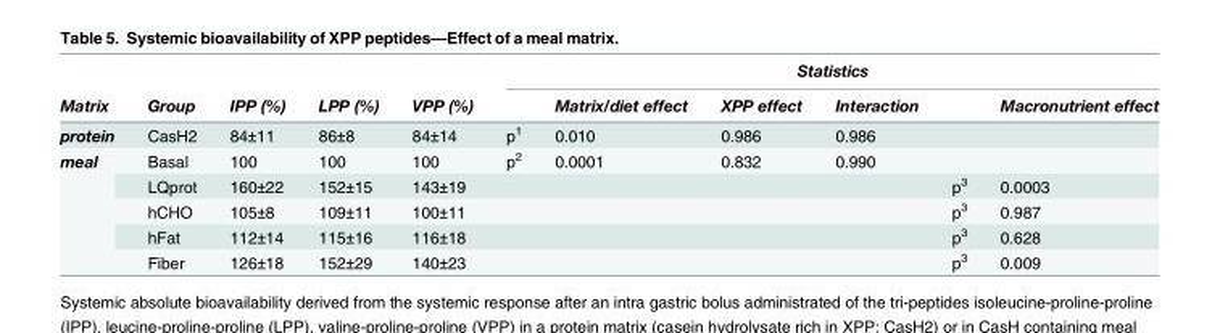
<table><thead><tr><td rowspan="2">Matrix</td><td rowspan="2">Group</td><td rowspan="2">IPP (%)</td><td rowspan="2">LPP (%)</td><td rowspan="2">VPP (%)</td><td colspan="6">Statistics</td></tr><tr><td></td><td>Matrix/diet effect</td><td>XPP effect</td><td>Interaction</td><td></td><td>Macronutrient effect</td></tr></thead><tbody><tr><td>protein</td><td>CasH2</td><td>84±11</td><td>86±8</td><td>84±14</td><td>p<sup>1</sup></td><td>0.010</td><td>0.986</td><td>0.986</td><td></td><td></td></tr><tr><td rowspan="5">meal</td><td>Basal</td><td>100</td><td>100</td><td>100</td><td>p<sup>2</sup></td><td>0.0001</td><td>0.832</td><td>0.990</td><td></td><td></td></tr><tr><td>LQprot</td><td>160±22</td><td>152±15</td><td>143±19</td><td></td><td></td><td></td><td></td><td>p<sup>3</sup></td><td>0.0003</td></tr><tr><td>hCHO</td><td>105±8</td><td>109±11</td><td>100±11</td><td></td><td></td><td></td><td></td><td>p<sup>3</sup></td><td>0.987</td></tr><tr><td>hFat</td><td>112±14</td><td>115±16</td><td>116±18</td><td></td><td></td><td></td><td></td><td>p<sup>3</sup></td><td>0.628</td></tr><tr><td>Fiber</td><td>126±18</td><td>152±29</td><td>140±23</td><td></td><td></td><td></td><td></td><td>p<sup>3</sup></td><td>0.009</td></tr></tbody></table>